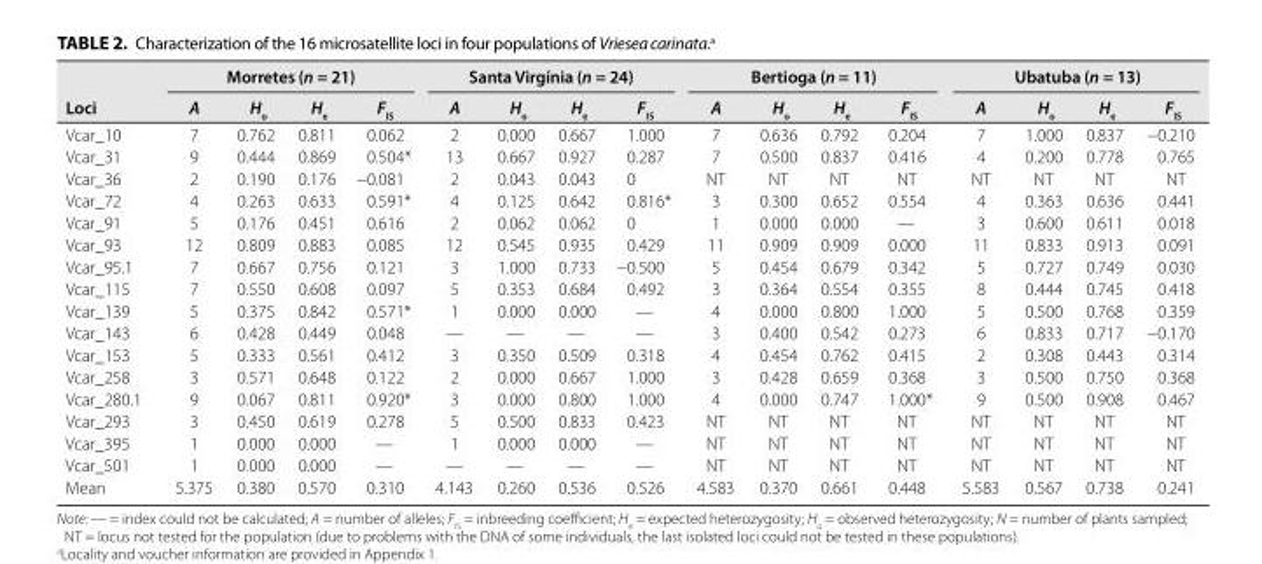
<table><thead><tr><td rowspan="2">Loci</td><td colspan="4">Morretes (n = 21)</td><td colspan="4">Santa Virgínia (n = 24)</td><td colspan="4">Bertioga (n = 11)</td><td colspan="4">Ubatuba (n = 13)</td></tr><tr><td>A</td><td>H<sub>o</sub></td><td>H<sub>e</sub></td><td>F<sub>IS</sub></td><td>A</td><td>H<sub>o</sub></td><td>H<sub>e</sub></td><td>F<sub>IS</sub></td><td>A</td><td>H<sub>o</sub></td><td>H<sub>e</sub></td><td>F<sub>IS</sub></td><td>A</td><td>H<sub>o</sub></td><td>H<sub>e</sub></td><td>F<sub>IS</sub></td></tr></thead><tbody><tr><td>Vcar_10</td><td>7</td><td>0.762</td><td>0.811</td><td>0.062</td><td>2</td><td>0.000</td><td>0.667</td><td>1.000</td><td>7</td><td>0.636</td><td>0.792</td><td>0.204</td><td>7</td><td>1.000</td><td>0.837</td><td>−0.210</td></tr><tr><td>Vcar_31</td><td>9</td><td>0.444</td><td>0.869</td><td>0.504*</td><td>13</td><td>0.667</td><td>0.927</td><td>0.287</td><td>7</td><td>0.500</td><td>0.837</td><td>0.416</td><td>4</td><td>0.200</td><td>0.778</td><td>0.765</td></tr><tr><td>Vcar_36</td><td>2</td><td>0.190</td><td>0.176</td><td>−0.081</td><td>2</td><td>0.043</td><td>0.043</td><td>0</td><td>NT</td><td>NT</td><td>NT</td><td>NT</td><td>NT</td><td>NT</td><td>NT</td><td>NT</td></tr><tr><td>Vcar_72</td><td>4</td><td>0.263</td><td>0.633</td><td>0.591*</td><td>4</td><td>0.125</td><td>0.642</td><td>0.816*</td><td>3</td><td>0.300</td><td>0.652</td><td>0.554</td><td>4</td><td>0.363</td><td>0.636</td><td>0.441</td></tr><tr><td>Vcar_91</td><td>5</td><td>0.176</td><td>0.451</td><td>0.616</td><td>2</td><td>0.062</td><td>0.062</td><td>0</td><td>1</td><td>0.000</td><td>0.000</td><td>—</td><td>3</td><td>0.600</td><td>0.611</td><td>0.018</td></tr><tr><td>Vcar_93</td><td>12</td><td>0.809</td><td>0.883</td><td>0.085</td><td>12</td><td>0.545</td><td>0.935</td><td>0.429</td><td>11</td><td>0.909</td><td>0.909</td><td>0.000</td><td>11</td><td>0.833</td><td>0.913</td><td>0.091</td></tr><tr><td>Vcar_95.1</td><td>7</td><td>0.667</td><td>0.756</td><td>0.121</td><td>3</td><td>1.000</td><td>0.733</td><td>−0.500</td><td>5</td><td>0.454</td><td>0.679</td><td>0.342</td><td>5</td><td>0.727</td><td>0.749</td><td>0.030</td></tr><tr><td>Vcar_115</td><td>7</td><td>0.550</td><td>0.608</td><td>0.097</td><td>5</td><td>0.353</td><td>0.684</td><td>0.492</td><td>3</td><td>0.364</td><td>0.554</td><td>0.355</td><td>8</td><td>0.444</td><td>0.745</td><td>0.418</td></tr><tr><td>Vcar_139</td><td>5</td><td>0.375</td><td>0.842</td><td>0.571*</td><td>1</td><td>0.000</td><td>0.000</td><td>—</td><td>4</td><td>0.000</td><td>0.800</td><td>1.000</td><td>5</td><td>0.500</td><td>0.768</td><td>0.359</td></tr><tr><td>Vcar_143</td><td>6</td><td>0.428</td><td>0.449</td><td>0.048</td><td>—</td><td>—</td><td>—</td><td>—</td><td>3</td><td>0.400</td><td>0.542</td><td>0.273</td><td>6</td><td>0.833</td><td>0.717</td><td>−0.170</td></tr><tr><td>Vcar_153</td><td>5</td><td>0.333</td><td>0.561</td><td>0.412</td><td>3</td><td>0.350</td><td>0.509</td><td>0.318</td><td>4</td><td>0.454</td><td>0.762</td><td>0.415</td><td>2</td><td>0.308</td><td>0.443</td><td>0.314</td></tr><tr><td>Vcar_258</td><td>3</td><td>0.571</td><td>0.648</td><td>0.122</td><td>2</td><td>0.000</td><td>0.667</td><td>1.000</td><td>3</td><td>0.428</td><td>0.659</td><td>0.368</td><td>3</td><td>0.500</td><td>0.750</td><td>0.368</td></tr><tr><td>Vcar_280.1</td><td>9</td><td>0.067</td><td>0.811</td><td>0.920*</td><td>3</td><td>0.000</td><td>0.800</td><td>1.000</td><td>4</td><td>0.000</td><td>0.747</td><td>1.000*</td><td>9</td><td>0.500</td><td>0.908</td><td>0.467</td></tr><tr><td>Vcar_293</td><td>3</td><td>0.450</td><td>0.619</td><td>0.278</td><td>5</td><td>0.500</td><td>0.833</td><td>0.423</td><td>NT</td><td>NT</td><td>NT</td><td>NT</td><td>NT</td><td>NT</td><td>NT</td><td>NT</td></tr><tr><td>Vcar_395</td><td>1</td><td>0.000</td><td>0.000</td><td>—</td><td>1</td><td>0.000</td><td>0.000</td><td>—</td><td>NT</td><td>NT</td><td>NT</td><td>NT</td><td>NT</td><td>NT</td><td>NT</td><td>NT</td></tr><tr><td>Vcar_501</td><td>1</td><td>0.000</td><td>0.000</td><td>—</td><td>—</td><td>—</td><td>—</td><td>—</td><td>NT</td><td>NT</td><td>NT</td><td>NT</td><td>NT</td><td>NT</td><td>NT</td><td>NT</td></tr><tr><td>Mean</td><td>5.375</td><td>0.380</td><td>0.570</td><td>0.310</td><td>4.143</td><td>0.260</td><td>0.536</td><td>0.526</td><td>4.583</td><td>0.370</td><td>0.661</td><td>0.448</td><td>5.583</td><td>0.567</td><td>0.738</td><td>0.241</td></tr></tbody></table>